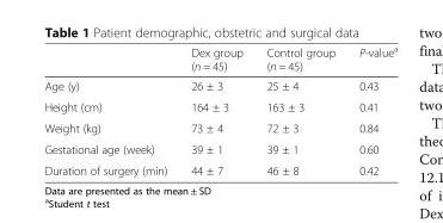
<table><thead><tr><td></td><td>Dex group (n = 45)</td><td>Control group (n = 45)</td><td>P-value<sup>a</sup></td></tr></thead><tbody><tr><td>Age (y)</td><td>26 ± 3</td><td>25 ± 4</td><td>0.43</td></tr><tr><td>Height (cm)</td><td>164 ± 3</td><td>163 ± 3</td><td>0.41</td></tr><tr><td>Weight (kg)</td><td>73 ± 4</td><td>72 ± 3</td><td>0.84</td></tr><tr><td>Gestational age (week)</td><td>39 ± 1</td><td>39 ± 1</td><td>0.60</td></tr><tr><td>Duration of surgery (min)</td><td>44 ± 7</td><td>46 ± 8</td><td>0.42</td></tr></tbody></table>